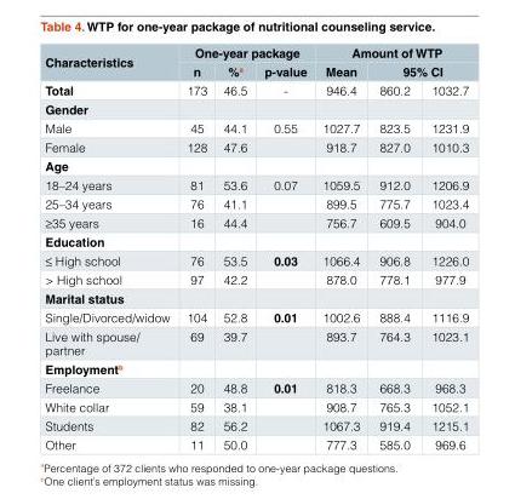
<table><thead><tr><td rowspan="3">Characteristics Total</td><td colspan="3">One-year package</td><td colspan="3">Amount of WTP</td></tr><tr><td rowspan="2">n 173</td><td rowspan="2">%<sup>a</sup> 46.5</td><td rowspan="2">p-value -</td><td rowspan="2">Mean 946.4</td><td colspan="2">95% CI</td></tr><tr><td>860.2</td><td>1032.7</td></tr></thead><tbody><tr><td colspan="7">Gender</td></tr><tr><td>Male</td><td>45</td><td>44.1</td><td>0.55</td><td>1027.7</td><td>823.5</td><td>1231.9</td></tr><tr><td>Female</td><td>128</td><td>47.6</td><td></td><td>918.7</td><td>827.0</td><td>1010.3</td></tr><tr><td colspan="7">Age</td></tr><tr><td>18–24 years</td><td>81</td><td>53.6</td><td>0.07</td><td>1059.5</td><td>912.0</td><td>1206.9</td></tr><tr><td>25–34 years</td><td>76</td><td>41.1</td><td></td><td>899.5</td><td>775.7</td><td>1023.4</td></tr><tr><td>≥35 years</td><td>16</td><td>44.4</td><td></td><td>756.7</td><td>609.5</td><td>904.0</td></tr><tr><td colspan="7">Education</td></tr><tr><td>≤ High school</td><td>76</td><td>53.5</td><td>0.03</td><td>1066.4</td><td>906.8</td><td>1226.0</td></tr><tr><td>&gt; High school</td><td>97</td><td>42.2</td><td></td><td>878.0</td><td>778.1</td><td>977.9</td></tr><tr><td colspan="7">Marital status</td></tr><tr><td>Single/Divorced/widow</td><td>104</td><td>52.8</td><td>0.01</td><td>1002.6</td><td>888.4</td><td>1116.9</td></tr><tr><td>Live with spouse/ partner</td><td>69</td><td>39.7</td><td></td><td>893.7</td><td>764.3</td><td>1023.1</td></tr><tr><td colspan="7">Employment<sup>b</sup></td></tr><tr><td>Freelance</td><td>20</td><td>48.8</td><td>0.01</td><td>818.3</td><td>668.3</td><td>968.3</td></tr><tr><td>White collar</td><td>59</td><td>38.1</td><td></td><td>908.7</td><td>765.3</td><td>1052.1</td></tr><tr><td>Students</td><td>82</td><td>56.2</td><td></td><td>1067.3</td><td>919.4</td><td>1215.1</td></tr><tr><td>Other</td><td>11</td><td>50.0</td><td></td><td>777.3</td><td>585.0</td><td>969.6</td></tr></tbody></table>